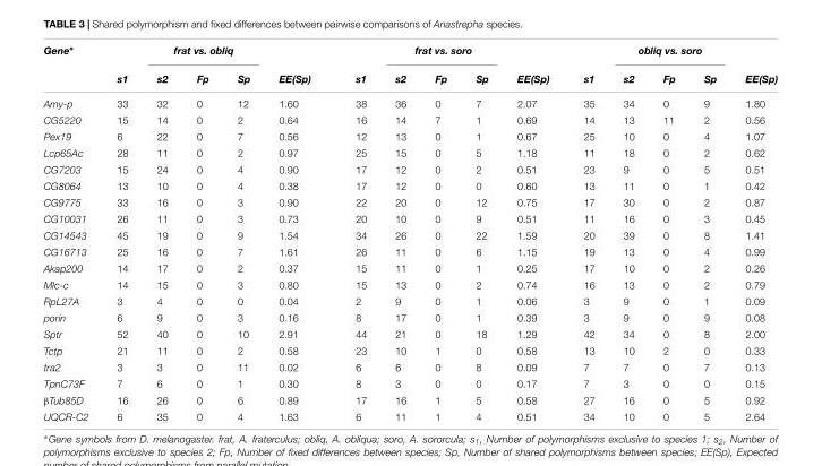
<table><thead><tr><td rowspan="2">Gene∗</td><td rowspan="2">s1</td><td colspan="3">frat vs. obliq</td><td rowspan="2">EE(Sp)</td><td rowspan="2">s1</td><td rowspan="2">s2</td><td colspan="3">frat vs. soro</td><td rowspan="2">s1</td><td rowspan="2">s2</td><td colspan="3">obliq vs. soro</td></tr><tr><td>s2</td><td>Fp</td><td>Sp</td><td>Fp</td><td>Sp</td><td>EE(Sp)</td><td>Fp</td><td>Sp</td><td>EE(Sp)</td></tr></thead><tbody><tr><td>Amy-p</td><td>33</td><td>32</td><td>0</td><td>12</td><td>1.60</td><td>38</td><td>36</td><td>0</td><td>7</td><td>2.07</td><td>35</td><td>34</td><td>0</td><td>9</td><td>1.80</td></tr><tr><td>CG5220</td><td>15</td><td>14</td><td>0</td><td>2</td><td>0.64</td><td>16</td><td>14</td><td>7</td><td>1</td><td>0.69</td><td>14</td><td>13</td><td>11</td><td>2</td><td>0.56</td></tr><tr><td>Pex19</td><td>6</td><td>22</td><td>0</td><td>7</td><td>0.56</td><td>12</td><td>13</td><td>0</td><td>1</td><td>0.67</td><td>25</td><td>10</td><td>0</td><td>4</td><td>1.07</td></tr><tr><td>Lcp65Ac</td><td>28</td><td>11</td><td>0</td><td>2</td><td>0.97</td><td>25</td><td>15</td><td>0</td><td>5</td><td>1.18</td><td>11</td><td>18</td><td>0</td><td>2</td><td>0.62</td></tr><tr><td>CG7203</td><td>15</td><td>24</td><td>0</td><td>4</td><td>0.90</td><td>17</td><td>12</td><td>0</td><td>2</td><td>0.51</td><td>23</td><td>9</td><td>0</td><td>5</td><td>0.51</td></tr><tr><td>CG8064</td><td>13</td><td>10</td><td>0</td><td>4</td><td>0.38</td><td>17</td><td>12</td><td>0</td><td>0</td><td>0.60</td><td>13</td><td>11</td><td>0</td><td>1</td><td>0.42</td></tr><tr><td>CG9775</td><td>33</td><td>16</td><td>0</td><td>3</td><td>0.90</td><td>22</td><td>20</td><td>0</td><td>12</td><td>0.75</td><td>17</td><td>30</td><td>0</td><td>2</td><td>0.87</td></tr><tr><td>CG10031</td><td>26</td><td>11</td><td>0</td><td>3</td><td>0.73</td><td>20</td><td>10</td><td>0</td><td>9</td><td>0.51</td><td>11</td><td>16</td><td>0</td><td>3</td><td>0.45</td></tr><tr><td>CG14543</td><td>45</td><td>19</td><td>0</td><td>9</td><td>1.54</td><td>34</td><td>26</td><td>0</td><td>22</td><td>1.59</td><td>20</td><td>39</td><td>0</td><td>8</td><td>1.41</td></tr><tr><td>CG16713</td><td>25</td><td>16</td><td>0</td><td>7</td><td>1.61</td><td>26</td><td>11</td><td>0</td><td>6</td><td>1.15</td><td>19</td><td>13</td><td>0</td><td>4</td><td>0.99</td></tr><tr><td>Akap200</td><td>14</td><td>17</td><td>0</td><td>2</td><td>0.37</td><td>15</td><td>11</td><td>0</td><td>1</td><td>0.25</td><td>17</td><td>10</td><td>0</td><td>2</td><td>0.26</td></tr><tr><td>Mlc-c</td><td>14</td><td>15</td><td>0</td><td>3</td><td>0.80</td><td>15</td><td>13</td><td>0</td><td>2</td><td>0.74</td><td>16</td><td>13</td><td>0</td><td>2</td><td>0.79</td></tr><tr><td>RpL27A</td><td>3</td><td>4</td><td>0</td><td>0</td><td>0.04</td><td>2</td><td>9</td><td>0</td><td>1</td><td>0.06</td><td>3</td><td>9</td><td>0</td><td>1</td><td>0.09</td></tr><tr><td>porin</td><td>6</td><td>9</td><td>0</td><td>3</td><td>0.16</td><td>8</td><td>17</td><td>0</td><td>1</td><td>0.39</td><td>3</td><td>9</td><td>0</td><td>9</td><td>0.08</td></tr><tr><td>Sptr</td><td>52</td><td>40</td><td>0</td><td>10</td><td>2.91</td><td>44</td><td>21</td><td>0</td><td>18</td><td>1.29</td><td>42</td><td>34</td><td>0</td><td>8</td><td>2.00</td></tr><tr><td>Tctp</td><td>21</td><td>11</td><td>0</td><td>2</td><td>0.58</td><td>23</td><td>10</td><td>1</td><td>0</td><td>0.58</td><td>13</td><td>10</td><td>2</td><td>0</td><td>0.33</td></tr><tr><td>tra2</td><td>3</td><td>3</td><td>0</td><td>11</td><td>0.02</td><td>6</td><td>6</td><td>0</td><td>8</td><td>0.09</td><td>7</td><td>7</td><td>0</td><td>7</td><td>0.13</td></tr><tr><td>TpnC73F</td><td>7</td><td>6</td><td>0</td><td>1</td><td>0.30</td><td>8</td><td>3</td><td>0</td><td>0</td><td>0.17</td><td>7</td><td>3</td><td>0</td><td>0</td><td>0.15</td></tr><tr><td>βTub85D</td><td>16</td><td>26</td><td>0</td><td>6</td><td>0.89</td><td>17</td><td>16</td><td>1</td><td>5</td><td>0.58</td><td>27</td><td>16</td><td>0</td><td>5</td><td>0.92</td></tr><tr><td>UQCR-C2</td><td>6</td><td>35</td><td>0</td><td>4</td><td>1.63</td><td>6</td><td>11</td><td>1</td><td>4</td><td>0.51</td><td>34</td><td>10</td><td>0</td><td>5</td><td>2.64</td></tr></tbody></table>